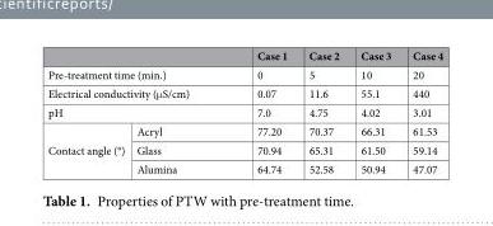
<table><thead><tr><td></td><td></td><td>Case 1</td><td>Case 2</td><td>Case 3</td><td>Case 4</td></tr></thead><tbody><tr><td colspan="2">Pre-treatment time (min.)</td><td>0</td><td>5</td><td>10</td><td>20</td></tr><tr><td colspan="2">Electrical conductivity (μS/cm)</td><td>0.07</td><td>11.6</td><td>55.1</td><td>440</td></tr><tr><td colspan="2">pH</td><td>7.0</td><td>4.75</td><td>4.02</td><td>3.01</td></tr><tr><td rowspan="3">Contact angle (°)</td><td>Acryl</td><td>77.20</td><td>70.37</td><td>66.31</td><td>61.53</td></tr><tr><td>Glass</td><td>70.94</td><td>65.31</td><td>61.50</td><td>59.14</td></tr><tr><td>Alumina</td><td>64.74</td><td>52.58</td><td>50.94</td><td>47.07</td></tr></tbody></table>